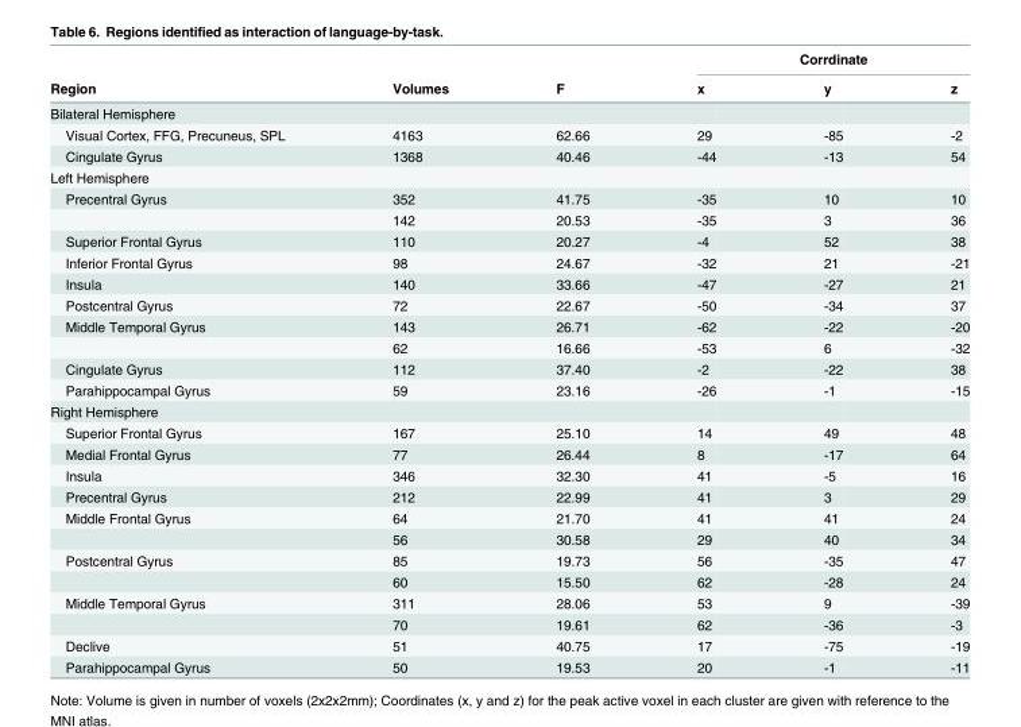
<table><thead><tr><td rowspan="2">Region</td><td rowspan="2">Volumes</td><td rowspan="2">F</td><td colspan="3">Corrdinate</td></tr><tr><td>x</td><td>y</td><td>z</td></tr></thead><tbody><tr><td colspan="6">Bilateral Hemisphere</td></tr><tr><td>Visual Cortex, FFG, Precuneus, SPL</td><td>4163</td><td>62.66</td><td>29</td><td>-85</td><td>-2</td></tr><tr><td>Cingulate Gyrus</td><td>1368</td><td>40.46</td><td>-44</td><td>-13</td><td>54</td></tr><tr><td colspan="6">Left Hemisphere</td></tr><tr><td rowspan="2">Precentral Gyrus</td><td>352</td><td>41.75</td><td>-35</td><td>10</td><td>10</td></tr><tr><td>142</td><td>20.53</td><td>-35</td><td>3</td><td>36</td></tr><tr><td>Superior Frontal Gyrus</td><td>110</td><td>20.27</td><td>-4</td><td>52</td><td>38</td></tr><tr><td>Inferior Frontal Gyrus</td><td>98</td><td>24.67</td><td>-32</td><td>21</td><td>-21</td></tr><tr><td>Insula</td><td>140</td><td>33.66</td><td>-47</td><td>-27</td><td>21</td></tr><tr><td>Postcentral Gyrus</td><td>72</td><td>22.67</td><td>-50</td><td>-34</td><td>37</td></tr><tr><td rowspan="2">Middle Temporal Gyrus</td><td>143</td><td>26.71</td><td>-62</td><td>-22</td><td>-20</td></tr><tr><td>62</td><td>16.66</td><td>-53</td><td>6</td><td>-32</td></tr><tr><td>Cingulate Gyrus</td><td>112</td><td>37.40</td><td>-2</td><td>-22</td><td>38</td></tr><tr><td>Parahippocampal Gyrus</td><td>59</td><td>23.16</td><td>-26</td><td>-1</td><td>-15</td></tr><tr><td colspan="6">Right Hemisphere</td></tr><tr><td>Superior Frontal Gyrus</td><td>167</td><td>25.10</td><td>14</td><td>49</td><td>48</td></tr><tr><td>Medial Frontal Gyrus</td><td>77</td><td>26.44</td><td>8</td><td>-17</td><td>64</td></tr><tr><td>Insula</td><td>346</td><td>32.30</td><td>41</td><td>-5</td><td>16</td></tr><tr><td>Precentral Gyrus</td><td>212</td><td>22.99</td><td>41</td><td>3</td><td>29</td></tr><tr><td rowspan="2">Middle Frontal Gyrus</td><td>64</td><td>21.70</td><td>41</td><td>41</td><td>24</td></tr><tr><td>56</td><td>30.58</td><td>29</td><td>40</td><td>34</td></tr><tr><td rowspan="2">Postcentral Gyrus</td><td>85</td><td>19.73</td><td>56</td><td>-35</td><td>47</td></tr><tr><td>60</td><td>15.50</td><td>62</td><td>-28</td><td>24</td></tr><tr><td rowspan="2">Middle Temporal Gyrus</td><td>311</td><td>28.06</td><td>53</td><td>9</td><td>-39</td></tr><tr><td>70</td><td>19.61</td><td>62</td><td>-36</td><td>-3</td></tr><tr><td>Declive</td><td>51</td><td>40.75</td><td>17</td><td>-75</td><td>-19</td></tr><tr><td>Parahippocampal Gyrus</td><td>50</td><td>19.53</td><td>20</td><td>-1</td><td>-11</td></tr></tbody></table>